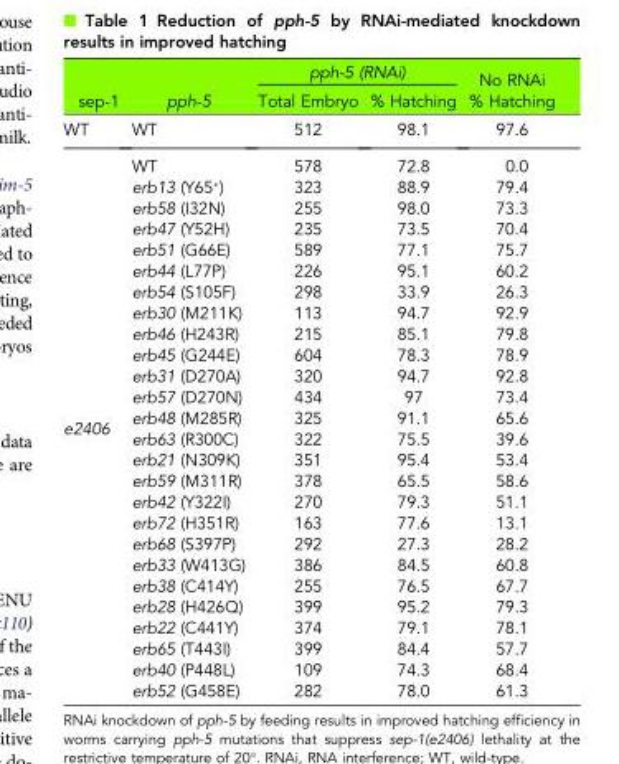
<table><thead><tr><td rowspan="2">sep-1</td><td rowspan="2">pph-5</td><td colspan="2">pph-5 (RNAi)</td><td rowspan="2">No RNAi % Hatching</td></tr><tr><td>Total Embryo</td><td>% Hatching</td></tr></thead><tbody><tr><td>WT</td><td>WT</td><td>512</td><td>98.1</td><td>97.6</td></tr><tr><td rowspan="26">e2406</td><td>WT</td><td>578</td><td>72.8</td><td>0.0</td></tr><tr><td>erb13 (Y65*)</td><td>323</td><td>88.9</td><td>79.4</td></tr><tr><td>erb58 (I32N)</td><td>255</td><td>98.0</td><td>73.3</td></tr><tr><td>erb47 (Y52H)</td><td>235</td><td>73.5</td><td>70.4</td></tr><tr><td>erb51 (G66E)</td><td>589</td><td>77.1</td><td>75.7</td></tr><tr><td>erb44 (L77P)</td><td>226</td><td>95.1</td><td>60.2</td></tr><tr><td>erb54 (S105F)</td><td>298</td><td>33.9</td><td>26.3</td></tr><tr><td>erb30 (M211K)</td><td>113</td><td>94.7</td><td>92.9</td></tr><tr><td>erb46 (H243R)</td><td>215</td><td>85.1</td><td>79.8</td></tr><tr><td>erb45 (G244E)</td><td>604</td><td>78.3</td><td>78.9</td></tr><tr><td>erb31 (D270A)</td><td>320</td><td>94.7</td><td>92.8</td></tr><tr><td>erb57 (D270N)</td><td>434</td><td>97</td><td>73.4</td></tr><tr><td>erb48 (M285R)</td><td>325</td><td>91.1</td><td>65.6</td></tr><tr><td>erb63 (R300C)</td><td>322</td><td>75.5</td><td>39.6</td></tr><tr><td>erb21 (N309K)</td><td>351</td><td>95.4</td><td>53.4</td></tr><tr><td>erb59 (M311R)</td><td>378</td><td>65.5</td><td>58.6</td></tr><tr><td>erb42 (Y322I)</td><td>270</td><td>79.3</td><td>51.1</td></tr><tr><td>erb72 (H351R)</td><td>163</td><td>77.6</td><td>13.1</td></tr><tr><td>erb68 (S397P)</td><td>292</td><td>27.3</td><td>28.2</td></tr><tr><td>erb33 (W413G)</td><td>386</td><td>84.5</td><td>60.8</td></tr><tr><td>erb38 (C414Y)</td><td>255</td><td>76.5</td><td>67.7</td></tr><tr><td>erb28 (H426Q)</td><td>399</td><td>95.2</td><td>79.3</td></tr><tr><td>erb22 (C441Y)</td><td>374</td><td>79.1</td><td>78.1</td></tr><tr><td>erb65 (T443I)</td><td>399</td><td>84.4</td><td>57.7</td></tr><tr><td>erb40 (P448L)</td><td>109</td><td>74.3</td><td>68.4</td></tr><tr><td>erb52 (G458E)</td><td>282</td><td>78.0</td><td>61.3</td></tr></tbody></table>